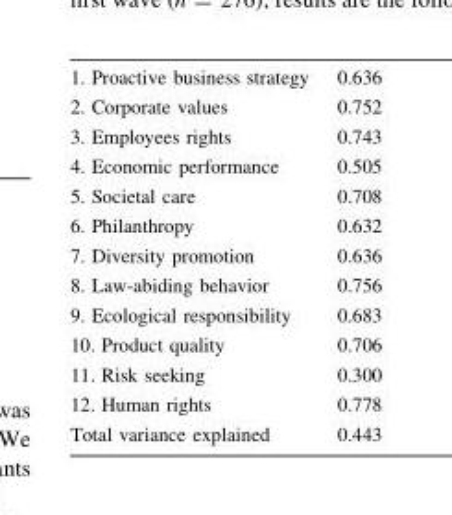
<table><tbody><tr><td>1. Proactive business strategy</td><td>0.636</td></tr><tr><td>2. Corporate values</td><td>0.752</td></tr><tr><td>3. Employees rights</td><td>0.743</td></tr><tr><td>4. Economic performance</td><td>0.505</td></tr><tr><td>5. Societal care</td><td>0.708</td></tr><tr><td>6. Philanthropy</td><td>0.632</td></tr><tr><td>7. Diversity promotion</td><td>0.636</td></tr><tr><td>8. Law-abiding behavior</td><td>0.756</td></tr><tr><td>9. Ecological responsibility</td><td>0.683</td></tr><tr><td>10. Product quality</td><td>0.706</td></tr><tr><td>11. Risk seeking</td><td>0.300</td></tr><tr><td>12. Human rights</td><td>0.778</td></tr><tr><td>Total variance explained</td><td>0.443</td></tr></tbody></table>